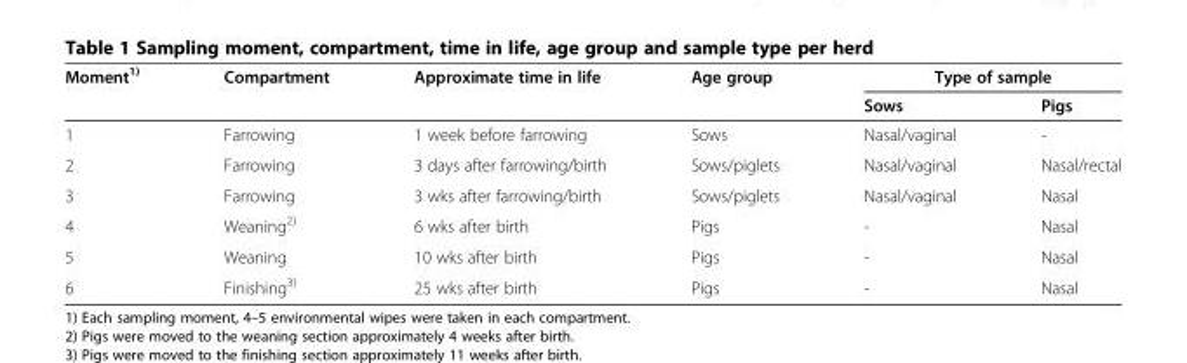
<table><thead><tr><td rowspan="2">Moment<sup>1)</sup></td><td rowspan="2">Compartment</td><td rowspan="2">Approximate time in life</td><td rowspan="2">Age group</td><td colspan="2">Type of sample</td></tr><tr><td>Sows</td><td>Pigs</td></tr></thead><tbody><tr><td>1</td><td>Farrowing</td><td>1 week before farrowing</td><td>Sows</td><td>Nasal/vaginal</td><td>-</td></tr><tr><td>2</td><td>Farrowing</td><td>3 days after farrowing/birth</td><td>Sows/piglets</td><td>Nasal/vaginal</td><td>Nasal/rectal</td></tr><tr><td>3</td><td>Farrowing</td><td>3 wks after farrowing/birth</td><td>Sows/piglets</td><td>Nasal/vaginal</td><td>Nasal</td></tr><tr><td>4</td><td>Weaning<sup>2)</sup></td><td>6 wks after birth</td><td>Pigs</td><td>-</td><td>Nasal</td></tr><tr><td>5</td><td>Weaning</td><td>10 wks after birth</td><td>Pigs</td><td>-</td><td>Nasal</td></tr><tr><td>6</td><td>Finishing<sup>3)</sup></td><td>25 wks after birth</td><td>Pigs</td><td>-</td><td>Nasal</td></tr></tbody></table>